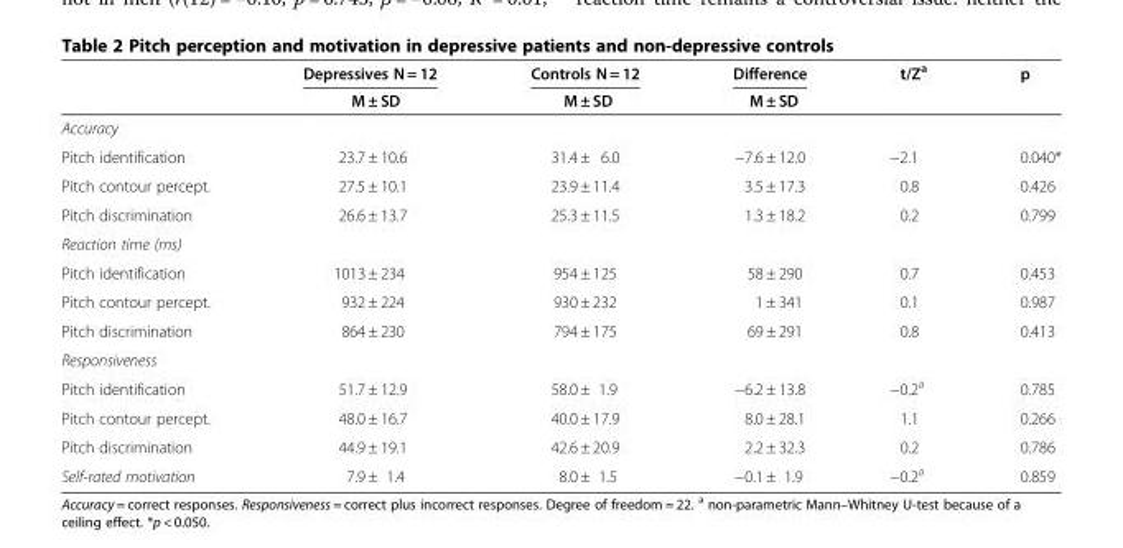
<table><thead><tr><td rowspan="2"></td><td rowspan="2">Depressives N = 12 M ± SD</td><td rowspan="2">Controls N = 12 M ± SD</td><td rowspan="2">Difference M ± SD</td><td rowspan="2">t/Z<sup>a</sup></td><td rowspan="2">p</td></tr><tr></tr></thead><tbody><tr><td colspan="6">Accuracy</td></tr><tr><td>Pitch identification</td><td>23.7 ± 10.6</td><td>31.4 ± 6.0</td><td>−7.6 ± 12.0</td><td>−2.1</td><td>0.040*</td></tr><tr><td>Pitch contour percept.</td><td>27.5 ± 10.1</td><td>23.9 ± 11.4</td><td>3.5 ± 17.3</td><td>0.8</td><td>0.426</td></tr><tr><td>Pitch discrimination</td><td>26.6 ± 13.7</td><td>25.3 ± 11.5</td><td>1.3 ± 18.2</td><td>0.2</td><td>0.799</td></tr><tr><td colspan="6">Reaction time (ms)</td></tr><tr><td>Pitch identification</td><td>1013 ± 234</td><td>954 ± 125</td><td>58 ± 290</td><td>0.7</td><td>0.453</td></tr><tr><td>Pitch contour percept.</td><td>932 ± 224</td><td>930 ± 232</td><td>1 ± 341</td><td>0.1</td><td>0.987</td></tr><tr><td>Pitch discrimination</td><td>864 ± 230</td><td>794 ± 175</td><td>69 ± 291</td><td>0.8</td><td>0.413</td></tr><tr><td colspan="6">Responsiveness</td></tr><tr><td>Pitch identification</td><td>51.7 ± 12.9</td><td>58.0 ± 1.9</td><td>−6.2 ± 13.8</td><td>−0.2<sup>a</sup></td><td>0.785</td></tr><tr><td>Pitch contour percept.</td><td>48.0 ± 16.7</td><td>40.0 ± 17.9</td><td>8.0 ± 28.1</td><td>1.1</td><td>0.266</td></tr><tr><td>Pitch discrimination</td><td>44.9 ± 19.1</td><td>42.6 ± 20.9</td><td>2.2 ± 32.3</td><td>0.2</td><td>0.786</td></tr><tr><td>Self-rated motivation</td><td>7.9 ± 1.4</td><td>8.0 ± 1.5</td><td>−0.1 ± 1.9</td><td>−0.2<sup>a</sup></td><td>0.859</td></tr></tbody></table>